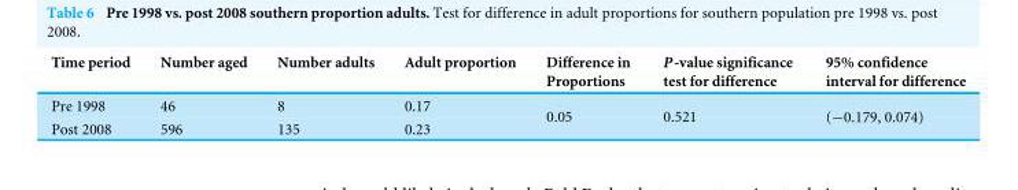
<table><thead><tr><td>Time period</td><td>Number aged</td><td>Number adults</td><td>Adult proportion</td><td>Difference in Proportions</td><td>P-value significance test for difference</td><td>95% confidence interval for difference</td></tr></thead><tbody><tr><td>Pre 1998</td><td>46</td><td>8</td><td>0.17</td><td rowspan="2">0.05</td><td rowspan="2">0.521</td><td rowspan="2">(−0.179, 0.074)</td></tr><tr><td>Post 2008</td><td>596</td><td>135</td><td>0.23</td></tr></tbody></table>